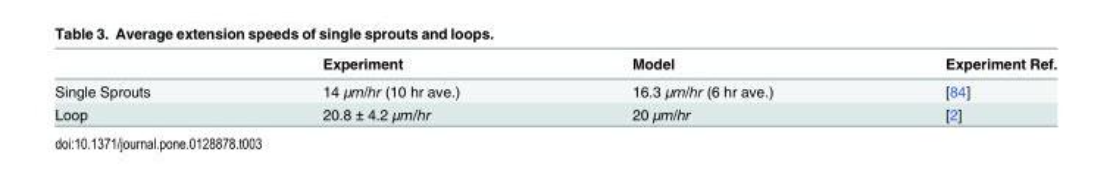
<table><thead><tr><td></td><td>Experiment</td><td>Model</td><td>Experiment Ref.</td></tr></thead><tbody><tr><td>Single Sprouts</td><td>14 μm/hr (10 hr ave.)</td><td>16.3 μm/hr (6 hr ave.)</td><td>[84]</td></tr><tr><td>Loop</td><td>20.8 ± 4.2 μm/hr</td><td>20 μm/hr</td><td>[2]</td></tr></tbody></table>